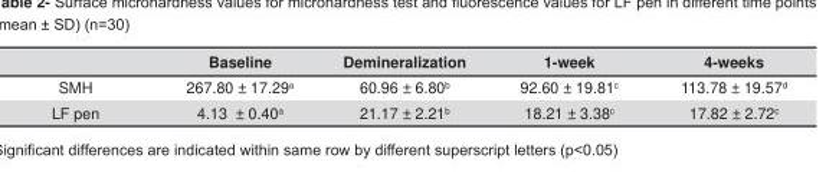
<table><thead><tr><td></td><td>Baseline</td><td>Demineralization</td><td>1-week</td><td>4-weeks</td></tr></thead><tbody><tr><td>SMH</td><td>267.80 ± 17.29<sup>a</sup></td><td>60.96 ± 6.80<sup>b</sup></td><td>92.60 ± 19.81<sup>c</sup></td><td>113.78 ± 19.57<sup>d</sup></td></tr><tr><td>LF pen</td><td>4.13 ± 0.40<sup>a</sup></td><td>21.17 ± 2.21<sup>b</sup></td><td>18.21 ± 3.38<sup>c</sup></td><td>17.82 ± 2.72<sup>c</sup></td></tr></tbody></table>